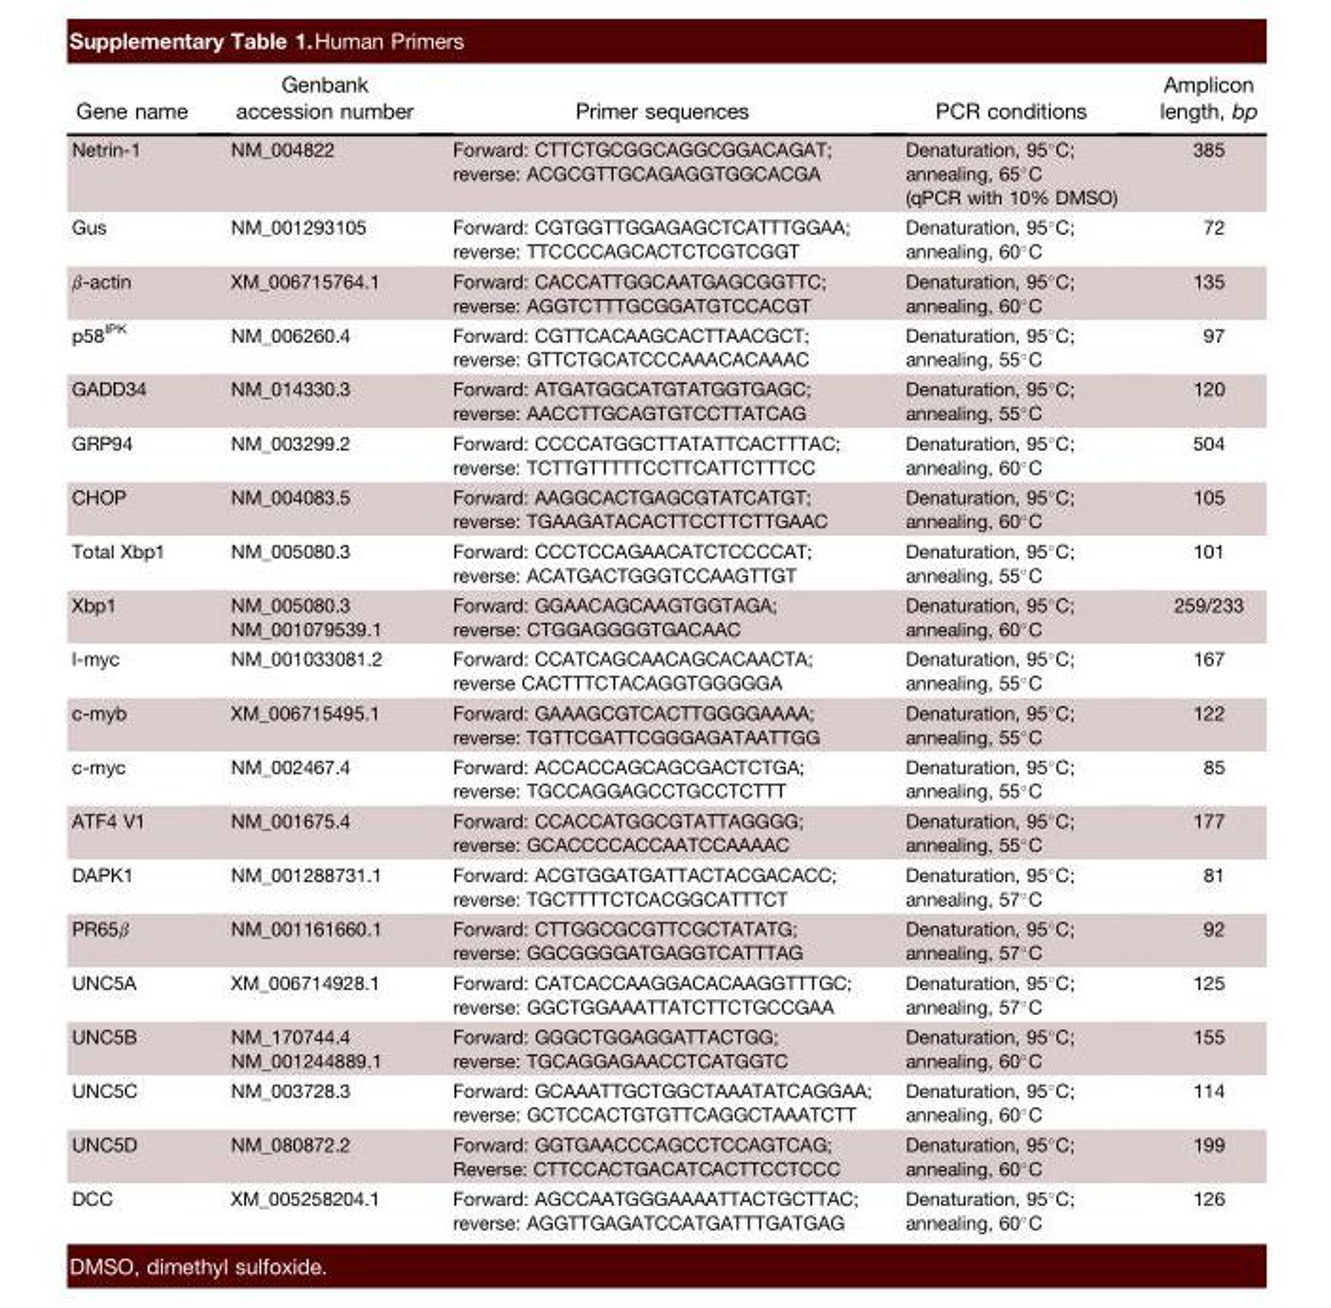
<table><thead><tr><td>Gene name</td><td>Genbank accession number</td><td>Primer sequences</td><td>PCR conditions</td><td>Amplicon length, bp</td></tr></thead><tbody><tr><td>Netrin-1</td><td>NM_004822</td><td>Forward: CTTCTGCGGCAGGCGGACAGAT; reverse: ACGCGTTGCAGAGGTGGCACGA</td><td>Denaturation, 95°C; annealing, 65°C (qPCR with 10% DMSO)</td><td>385</td></tr><tr><td>Gus</td><td>NM_001293105</td><td>Forward: CGTGGTTGGAGAGCTCATTTGGAA; reverse: TTCCCCAGCACTCTCGTCGGT</td><td>Denaturation, 95°C; annealing, 60°C</td><td>72</td></tr><tr><td>β-actin</td><td>XM_006715764.1</td><td>Forward: CACCATTGGCAATGAGCGGTTC; reverse: AGGTCTTTGCGGATGTCCACGT</td><td>Denaturation, 95°C; annealing, 60°C</td><td>135</td></tr><tr><td>p58IPK</td><td>NM_006260.4</td><td>Forward: CGTTCACAAGCACTTAACGCT; reverse: GTTCTGCATCCCAAACACAAAC</td><td>Denaturation, 95°C; annealing, 55°C</td><td>97</td></tr><tr><td>GADD34</td><td>NM_014330.3</td><td>Forward: ATGATGGCATGTATGGTGAGC; reverse: AACCTTGCAGTGTCCTTATCAG</td><td>Denaturation, 95°C; annealing, 55°C</td><td>120</td></tr><tr><td>GRP94</td><td>NM_003299.2</td><td>Forward: CCCCATGGCTTATATTCACTTTAC; reverse: TCTTGTTTTTCCTTCATTCTTTCC</td><td>Denaturation, 95°C; annealing, 60°C</td><td>504</td></tr><tr><td>CHOP</td><td>NM_004083.5</td><td>Forward: AAGGCACTGAGCGTATCATGT; reverse: TGAAGATACACTTCCTTCTTGAAC</td><td>Denaturation, 95°C; annealing, 60°C</td><td>105</td></tr><tr><td>Total Xbp1</td><td>NM_005080.3</td><td>Forward: CCCTCCAGAACATCTCCCCAT; reverse: ACATGACTGGGTCCAAGTTGT</td><td>Denaturation, 95°C; annealing, 55°C</td><td>101</td></tr><tr><td>Xbp1</td><td>NM_005080.3 NM_001079539.1</td><td>Forward: GGAACAGCAAGTGGTAGA; reverse: CTGGAGGGGTGACAAC</td><td>Denaturation, 95°C; annealing, 60°C</td><td>259/233</td></tr><tr><td>l-myc</td><td>NM_001033081.2</td><td>Forward: CCATCAGCAACAGCACAACTA; reverse CACTTTCTACAGGTGGGGGA</td><td>Denaturation, 95°C; annealing, 55°C</td><td>167</td></tr><tr><td>c-myb</td><td>XM_006715495.1</td><td>Forward: GAAAGCGTCACTTGGGGAAAA; reverse: TGTTCGATTCGGGAGATAATTGG</td><td>Denaturation, 95°C; annealing, 55°C</td><td>122</td></tr><tr><td>c-myc</td><td>NM_002467.4</td><td>Forward: ACCACCAGCAGCGACTCTGA; reverse: TGCCAGGAGCCTGCCTCTTT</td><td>Denaturation, 95°C; annealing, 55°C</td><td>85</td></tr><tr><td>ATF4 V1</td><td>NM_001675.4</td><td>Forward: CCACCATGGCGTATTAGGGG; reverse: GCACCCCACCAATCCAAAAC</td><td>Denaturation, 95°C; annealing, 55°C</td><td>177</td></tr><tr><td>DAPK1</td><td>NM_001288731.1</td><td>Forward: ACGTGGATGATTACTACGACACC; reverse: TGCTTTTCTCACGGCATTTCT</td><td>Denaturation, 95°C; annealing, 57°C</td><td>81</td></tr><tr><td>PR65β</td><td>NM_001161660.1</td><td>Forward: CTTGGCGCGTTCGCTATATG; reverse: GGCGGGGATGAGGTCATTTAG</td><td>Denaturation, 95°C; annealing, 57°C</td><td>92</td></tr><tr><td>UNC5A</td><td>XM_006714928.1</td><td>Forward: CATCACCAAGGACACAAGGTTTGC; reverse: GGCTGGAAATTATCTTCTGCCGAA</td><td>Denaturation, 95°C; annealing, 57°C</td><td>125</td></tr><tr><td>UNC5B</td><td>NM_170744.4 NM_001244889.1</td><td>Forward: GGGCTGGAGGATTACTGG; reverse: TGCAGGAGAACCTCATGGTC</td><td>Denaturation, 95°C; annealing, 60°C</td><td>155</td></tr><tr><td>UNC5C</td><td>NM_003728.3</td><td>Forward: GCAAATTGCTGGCTAAATATCAGGAA; reverse: GCTCCACTGTGTTCAGGCTAAATCTT</td><td>Denaturation, 95°C; annealing, 60°C</td><td>114</td></tr><tr><td>UNC5D</td><td>NM_080872.2</td><td>Forward: GGTGAACCCAGCCTCCAGTCAG; Reverse: CTTCCACTGACATCACTTCCTCCC</td><td>Denaturation, 95°C; annealing, 60°C</td><td>199</td></tr><tr><td>DCC</td><td>XM_005258204.1</td><td>Forward: AGCCAATGGGAAAATTACTGCTTAC; reverse: AGGTTGAGATCCATGATTTGATGAG</td><td>Denaturation, 95°C; annealing, 60°C</td><td>126</td></tr></tbody></table>